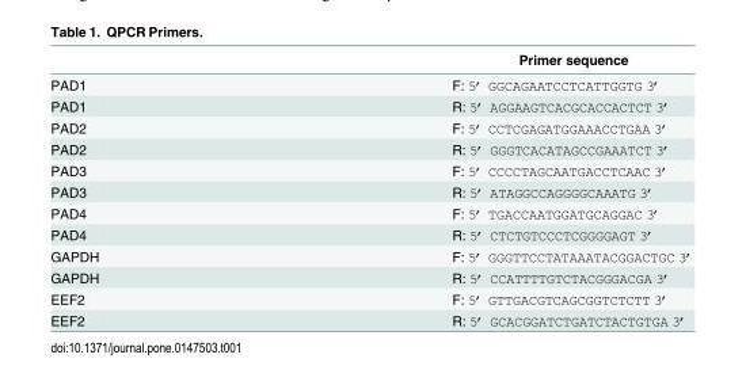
<table><thead><tr><td></td><td>Primer sequence</td></tr></thead><tbody><tr><td>PAD1</td><td>F: 5’ GGCAGAATCCTCATTGGTG 3’</td></tr><tr><td>PAD1</td><td>R: 5’ AGGAAGTCACGCACCACTCT 3’</td></tr><tr><td>PAD2</td><td>F: 5’ CCTCGAGATGGAAACCTGAA 3’</td></tr><tr><td>PAD2</td><td>R: 5’ GGGTCACATAGCCGAAATCT 3’</td></tr><tr><td>PAD3</td><td>F: 5’ CCCCTAGCAATGACCTCAAC 3’</td></tr><tr><td>PAD3</td><td>R: 5’ ATAGGCCAGGGGCAAATG 3’</td></tr><tr><td>PAD4</td><td>F: 5’ TGACCAATGGATGCAGGAC 3’</td></tr><tr><td>PAD4</td><td>R: 5’ CTCTGTCCCTCGGGGAGT 3’</td></tr><tr><td>GAPDH</td><td>F: 5’ GGGTTCCTATAAATACGGACTGC 3’</td></tr><tr><td>GAPDH</td><td>R: 5’ CCATTTTGTCTACGGGACGA 3’</td></tr><tr><td>EEF2</td><td>F: 5’ GTTGACGTCAGCGGTCTCTT 3’</td></tr><tr><td>EEF2</td><td>R: 5’ GCACGGATCTGATCTACTGTGA 3’</td></tr></tbody></table>